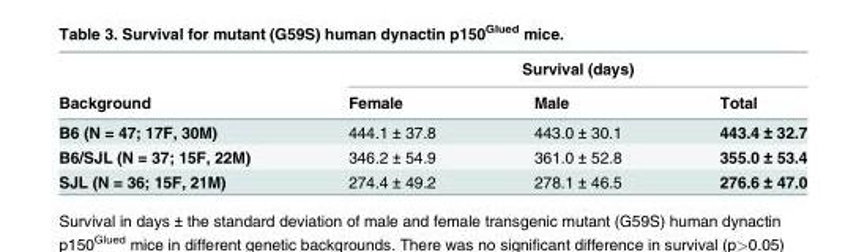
<table><thead><tr><td rowspan="2">Background</td><td colspan="3">Survival (days)</td></tr><tr><td>Female</td><td>Male</td><td>Total</td></tr></thead><tbody><tr><td>B6 (N = 47; 17F, 30M)</td><td>444.1 ± 37.8</td><td>443.0 ± 30.1</td><td>443.4 ± 32.7</td></tr><tr><td>B6/SJL (N = 37; 15F, 22M)</td><td>346.2 ± 54.9</td><td>361.0 ± 52.8</td><td>355.0 ± 53.4</td></tr><tr><td>SJL (N = 36; 15F, 21M)</td><td>274.4 ± 49.2</td><td>278.1 ± 46.5</td><td>276.6 ± 47.0</td></tr></tbody></table>